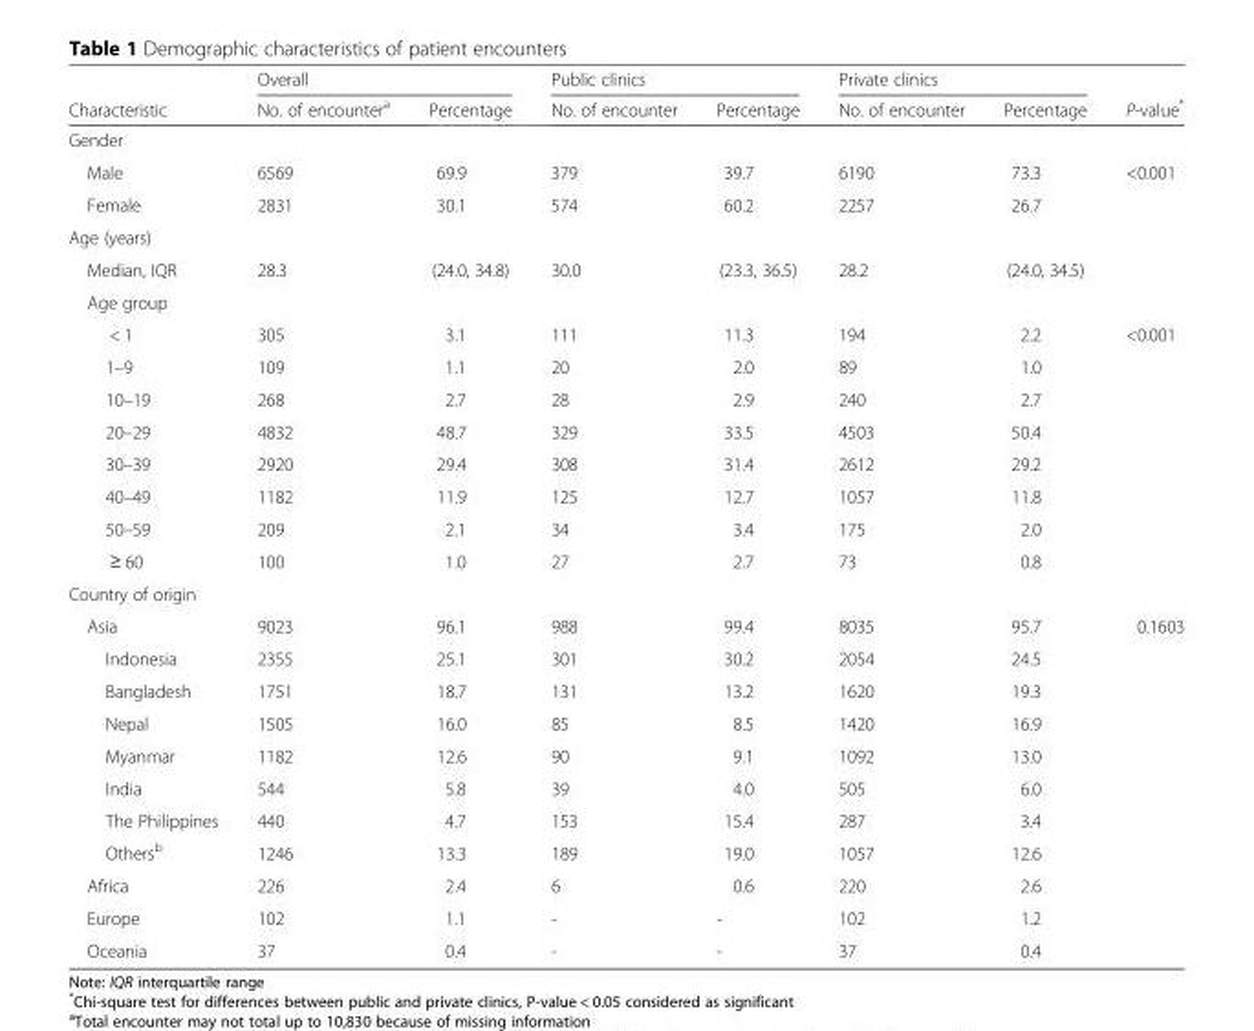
<table><thead><tr><td rowspan="2">Characteristic</td><td colspan="2">Overall</td><td colspan="2">Public clinics</td><td colspan="2">Private clinics</td><td rowspan="2">P-value*</td></tr><tr><td>No. of encounter<sup>a</sup></td><td>Percentage</td><td>No. of encounter</td><td>Percentage</td><td>No. of encounter</td><td>Percentage</td></tr></thead><tbody><tr><td colspan="8">Gender</td></tr><tr><td>Male</td><td>6569</td><td>69.9</td><td>379</td><td>39.7</td><td>6190</td><td>73.3</td><td>&lt;0.001</td></tr><tr><td>Female</td><td>2831</td><td>30.1</td><td>574</td><td>60.2</td><td>2257</td><td>26.7</td><td></td></tr><tr><td colspan="8">Age (years)</td></tr><tr><td>Median, IQR</td><td>28.3</td><td>(24.0, 34.8)</td><td>30.0</td><td>(23.3, 36.5)</td><td>28.2</td><td>(24.0, 34.5)</td><td></td></tr><tr><td colspan="8">Age group</td></tr><tr><td>&lt; 1</td><td>305</td><td>3.1</td><td>111</td><td>11.3</td><td>194</td><td>2.2</td><td>&lt;0.001</td></tr><tr><td>1–9</td><td>109</td><td>1.1</td><td>20</td><td>2.0</td><td>89</td><td>1.0</td><td></td></tr><tr><td>10–19</td><td>268</td><td>2.7</td><td>28</td><td>2.9</td><td>240</td><td>2.7</td><td></td></tr><tr><td>20–29</td><td>4832</td><td>48.7</td><td>329</td><td>33.5</td><td>4503</td><td>50.4</td><td></td></tr><tr><td>30–39</td><td>2920</td><td>29.4</td><td>308</td><td>31.4</td><td>2612</td><td>29.2</td><td></td></tr><tr><td>40–49</td><td>1182</td><td>11.9</td><td>125</td><td>12.7</td><td>1057</td><td>11.8</td><td></td></tr><tr><td>50–59</td><td>209</td><td>2.1</td><td>34</td><td>3.4</td><td>175</td><td>2.0</td><td></td></tr><tr><td>≥ 60</td><td>100</td><td>1.0</td><td>27</td><td>2.7</td><td>73</td><td>0.8</td><td></td></tr><tr><td colspan="8">Country of origin</td></tr><tr><td>Asia</td><td>9023</td><td>96.1</td><td>988</td><td>99.4</td><td>8035</td><td>95.7</td><td>0.1603</td></tr><tr><td>Indonesia</td><td>2355</td><td>25.1</td><td>301</td><td>30.2</td><td>2054</td><td>24.5</td><td></td></tr><tr><td>Bangladesh</td><td>1751</td><td>18.7</td><td>131</td><td>13.2</td><td>1620</td><td>19.3</td><td></td></tr><tr><td>Nepal</td><td>1505</td><td>16.0</td><td>85</td><td>8.5</td><td>1420</td><td>16.9</td><td></td></tr><tr><td>Myanmar</td><td>1182</td><td>12.6</td><td>90</td><td>9.1</td><td>1092</td><td>13.0</td><td></td></tr><tr><td>India</td><td>544</td><td>5.8</td><td>39</td><td>4.0</td><td>505</td><td>6.0</td><td></td></tr><tr><td>The Philippines</td><td>440</td><td>4.7</td><td>153</td><td>15.4</td><td>287</td><td>3.4</td><td></td></tr><tr><td>Others<sup>b</sup></td><td>1246</td><td>13.3</td><td>189</td><td>19.0</td><td>1057</td><td>12.6</td><td></td></tr><tr><td>Africa</td><td>226</td><td>2.4</td><td>6</td><td>0.6</td><td>220</td><td>2.6</td><td></td></tr><tr><td>Europe</td><td>102</td><td>1.1</td><td>-</td><td>-</td><td>102</td><td>1.2</td><td></td></tr><tr><td>Oceania</td><td>37</td><td>0.4</td><td>-</td><td>-</td><td>37</td><td>0.4</td><td></td></tr></tbody></table>